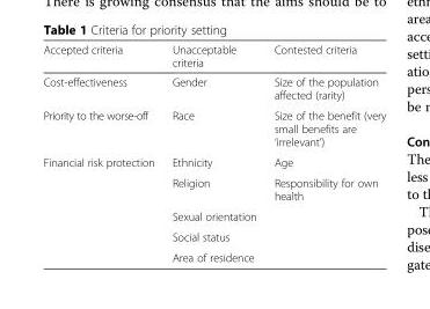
<table><thead><tr><td>Accepted criteria</td><td>Unacceptable criteria</td><td>Contested criteria</td></tr></thead><tbody><tr><td>Cost-effectiveness</td><td>Gender</td><td>Size of the population affected (rarity)</td></tr><tr><td>Priority to the worse-off</td><td>Race</td><td>Size of the benefit (very small benefits are ‘irrelevant’)</td></tr><tr><td rowspan="5">Financial risk protection</td><td>Ethnicity</td><td>Age</td></tr><tr><td>Religion</td><td>Responsibility for own health</td></tr><tr><td>Sexual orientation</td><td></td></tr><tr><td>Social status</td><td></td></tr><tr><td>Area of residence</td><td></td></tr></tbody></table>